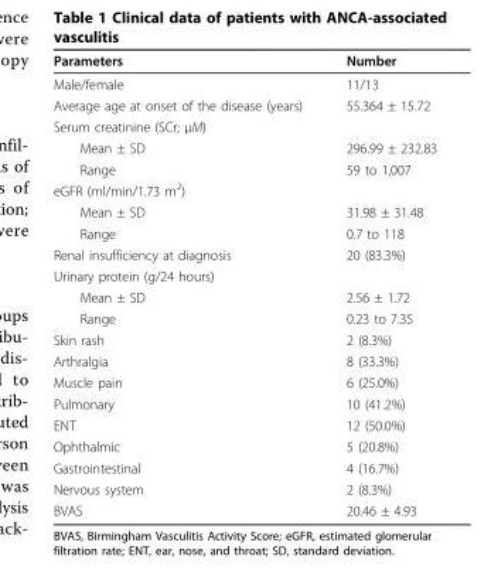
<table><thead><tr><td>Parameters</td><td>Number</td></tr></thead><tbody><tr><td>Male/female</td><td>11/13</td></tr><tr><td>Average age at onset of the disease (years)</td><td>55.364 ± 15.72</td></tr><tr><td colspan="2">Serum creatinine (SCr; μM)</td></tr><tr><td>Mean ± SD</td><td>296.99 ± 232.83</td></tr><tr><td>Range</td><td>59 to 1,007</td></tr><tr><td colspan="2">eGFR (ml/min/1.73 m<sup>2</sup>)</td></tr><tr><td>Mean ± SD</td><td>31.98 ± 31.48</td></tr><tr><td>Range</td><td>0.7 to 118</td></tr><tr><td>Renal insufficiency at diagnosis</td><td>20 (83.3%)</td></tr><tr><td colspan="2">Urinary protein (g/24 hours)</td></tr><tr><td>Mean ± SD</td><td>2.56 ± 1.72</td></tr><tr><td>Range</td><td>0.23 to 7.35</td></tr><tr><td>Skin rash</td><td>2 (8.3%)</td></tr><tr><td>Arthralgia</td><td>8 (33.3%)</td></tr><tr><td>Muscle pain</td><td>6 (25.0%)</td></tr><tr><td>Pulmonary</td><td>10 (41.2%)</td></tr><tr><td>ENT</td><td>12 (50.0%)</td></tr><tr><td>Ophthalmic</td><td>5 (20.8%)</td></tr><tr><td>Gastrointestinal</td><td>4 (16.7%)</td></tr><tr><td>Nervous system</td><td>2 (8.3%)</td></tr><tr><td>BVAS</td><td>20.46 ± 4.93</td></tr></tbody></table>